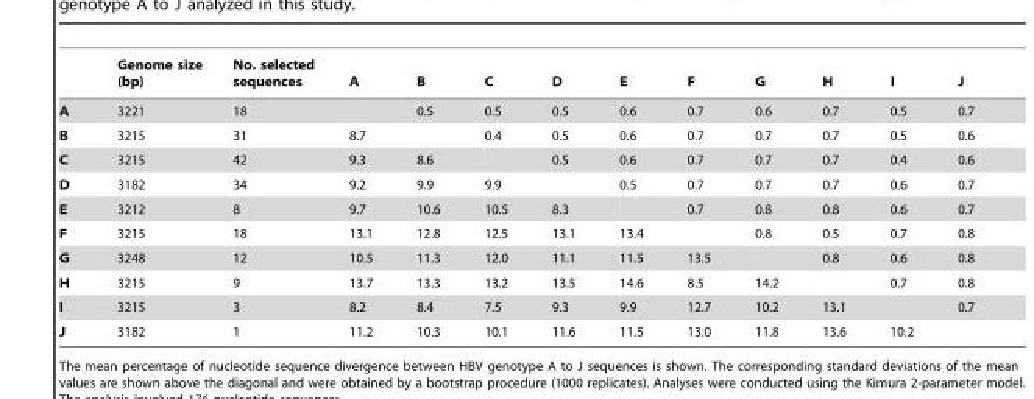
<table><thead><tr><td></td><td>Genome size (bp)</td><td>No. selected sequences</td><td>A</td><td>B</td><td>C</td><td>D</td><td>E</td><td>F</td><td>G</td><td>H</td><td>I</td><td>J</td></tr></thead><tbody><tr><td>A</td><td>3221</td><td>18</td><td></td><td>0.5</td><td>0.5</td><td>0.5</td><td>0.6</td><td>0.7</td><td>0.6</td><td>0.7</td><td>0.5</td><td>0.7</td></tr><tr><td>B</td><td>3215</td><td>31</td><td>8.7</td><td></td><td>0.4</td><td>0.5</td><td>0.6</td><td>0.7</td><td>0.7</td><td>0.7</td><td>0.5</td><td>0.6</td></tr><tr><td>C</td><td>3215</td><td>42</td><td>9.3</td><td>8.6</td><td></td><td>0.5</td><td>0.6</td><td>0.7</td><td>0.7</td><td>0.7</td><td>0.4</td><td>0.6</td></tr><tr><td>D</td><td>3182</td><td>34</td><td>9.2</td><td>9.9</td><td>9.9</td><td></td><td>0.5</td><td>0.7</td><td>0.7</td><td>0.7</td><td>0.6</td><td>0.7</td></tr><tr><td>E</td><td>3212</td><td>8</td><td>9.7</td><td>10.6</td><td>10.5</td><td>8.3</td><td></td><td>0.7</td><td>0.8</td><td>0.8</td><td>0.6</td><td>0.7</td></tr><tr><td>F</td><td>3215</td><td>18</td><td>13.1</td><td>12.8</td><td>12.5</td><td>13.1</td><td>13.4</td><td></td><td>0.8</td><td>0.5</td><td>0.7</td><td>0.8</td></tr><tr><td>G</td><td>3248</td><td>12</td><td>10.5</td><td>11.3</td><td>12.0</td><td>11.1</td><td>11.5</td><td>13.5</td><td></td><td>0.8</td><td>0.6</td><td>0.8</td></tr><tr><td>H</td><td>3215</td><td>9</td><td>13.7</td><td>13.3</td><td>13.2</td><td>13.5</td><td>14.6</td><td>8.5</td><td>14.2</td><td></td><td>0.7</td><td>0.8</td></tr><tr><td>I</td><td>3215</td><td>3</td><td>8.2</td><td>8.4</td><td>7.5</td><td>9.3</td><td>9.9</td><td>12.7</td><td>10.2</td><td>13.1</td><td></td><td>0.7</td></tr><tr><td>J</td><td>3182</td><td>1</td><td>11.2</td><td>10.3</td><td>10.1</td><td>11.6</td><td>11.5</td><td>13.0</td><td>11.8</td><td>13.6</td><td>10.2</td><td></td></tr></tbody></table>